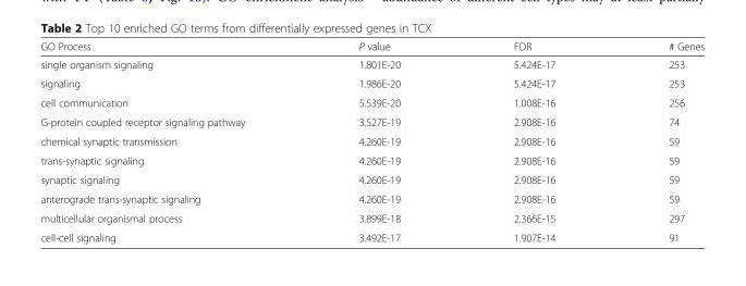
<table><thead><tr><td>GO Process</td><td>P value</td><td>FDR</td><td># Genes</td></tr></thead><tbody><tr><td>single organism signaling</td><td>1.801E-20</td><td>5.424E-17</td><td>253</td></tr><tr><td>signaling</td><td>1.986E-20</td><td>5.424E-17</td><td>253</td></tr><tr><td>cell communication</td><td>5.539E-20</td><td>1.008E-16</td><td>256</td></tr><tr><td>G-protein coupled receptor signaling pathway</td><td>3.527E-19</td><td>2.908E-16</td><td>74</td></tr><tr><td>chemical synaptic transmission</td><td>4.260E-19</td><td>2.908E-16</td><td>59</td></tr><tr><td>trans-synaptic signaling</td><td>4.260E-19</td><td>2.908E-16</td><td>59</td></tr><tr><td>synaptic signaling</td><td>4.260E-19</td><td>2.908E-16</td><td>59</td></tr><tr><td>anterograde trans-synaptic signaling</td><td>4.260E-19</td><td>2.908E-16</td><td>59</td></tr><tr><td>multicellular organismal process</td><td>3.899E-18</td><td>2.366E-15</td><td>297</td></tr><tr><td>cell-cell signaling</td><td>3.492E-17</td><td>1.907E-14</td><td>91</td></tr></tbody></table>